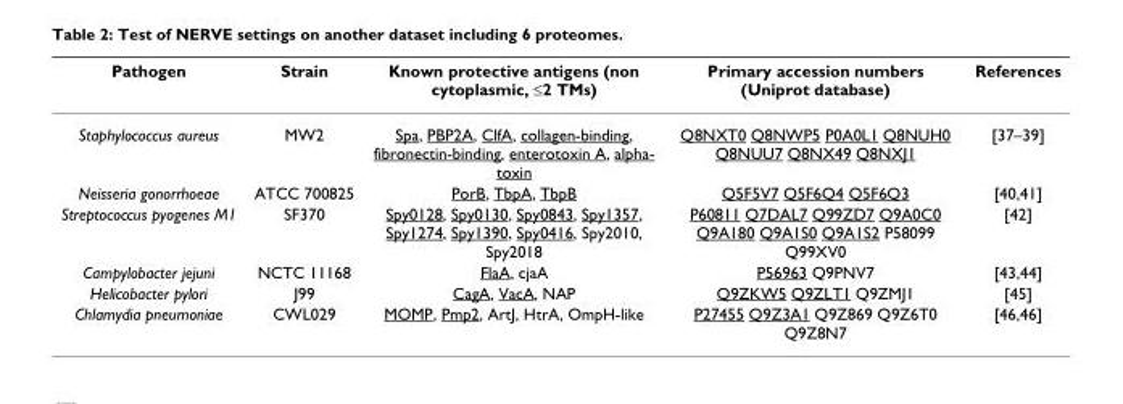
<table><thead><tr><td>Pathogen</td><td>Strain</td><td>Known protective antigens (non cytoplasmic, ≤2 TMs)</td><td>Primary accession numbers (Uniprot database)</td><td>References</td></tr></thead><tbody><tr><td>Staphylococcus aureus</td><td>MW2</td><td>Spa, PBP2A, ClfA, collagen-binding, fibronectin-binding, enterotoxin A, alpha- toxin</td><td>Q8NXT0 Q8NWP5 P0A0L1 Q8NUH0 Q8NUU7 Q8NX49 Q8NXJ1</td><td>[37–39]</td></tr><tr><td>Neisseria gonorrhoeae</td><td>ATCC 700825</td><td>PorB, TbpA, TbpB</td><td>Q5F5V7 Q5F6Q4 Q5F6Q3</td><td>[40,41]</td></tr><tr><td>Streptococcus pyogenes M1</td><td>SF370</td><td>Spy0128, Spy0130, Spy0843, Spy1357, Spy1274, Spy1390, Spy0416, Spy2010, Spy2018</td><td>P60811 Q7DAL7 Q99ZD7 Q9A0C0 Q9A180 Q9A1S0 Q9A1S2 P58099 Q99XV0</td><td>[42]</td></tr><tr><td>Campylobacter jejuni</td><td>NCTC 11168</td><td>FlaA, cjaA</td><td>P56963 Q9PNV7</td><td>[43,44]</td></tr><tr><td>Helicobacter pylori</td><td>J99</td><td>CagA, VacA, NAP</td><td>Q9ZKW5 Q9ZLT1 Q9ZMJ1</td><td>[45]</td></tr><tr><td>Chlamydia pneumoniae</td><td>CWL029</td><td>MOMP, Pmp2, ArtJ, HtrA, OmpH-like</td><td>P27455 Q9Z3A1 Q9Z869 Q9Z6T0 Q9Z8N7</td><td>[46,46]</td></tr></tbody></table>